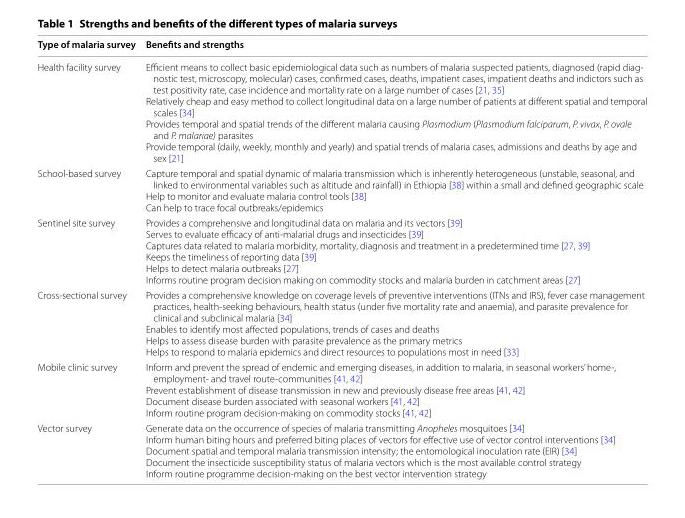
<table><thead><tr><td>Type of malaria survey</td><td>Benefits and strengths</td></tr></thead><tbody><tr><td>Health facility survey</td><td>Efficient means to collect basic epidemiological data such as numbers of malaria suspected patients, diagnosed (rapid diag- nostic test, microscopy, molecular) cases, confirmed cases, deaths, impatient cases, impatient deaths and indictors such as test positivity rate, case incidence and mortality rate on a large number of cases [21, 35] Relatively cheap and easy method to collect longitudinal data on a large number of patients at different spatial and temporal scales [34] Provides temporal and spatial trends of the different malaria causing Plasmodium (Plasmodium falciparum, P. vivax, P. ovale and P. malariae) parasites Provide temporal (daily, weekly, monthly and yearly) and spatial trends of malaria cases, admissions and deaths by age and sex [21]</td></tr><tr><td>School-based survey</td><td>Capture temporal and spatial dynamic of malaria transmission which is inherently heterogeneous (unstable, seasonal, and linked to environmental variables such as altitude and rainfall) in Ethiopia [38] within a small and defined geographic scale Help to monitor and evaluate malaria control tools [38] Can help to trace focal outbreaks/epidemics</td></tr><tr><td>Sentinel site survey</td><td>Provides a comprehensive and longitudinal data on malaria and its vectors [39] Serves to evaluate efficacy of anti-malarial drugs and insecticides [39] Captures data related to malaria morbidity, mortality, diagnosis and treatment in a predetermined time [27, 39] Keeps the timeliness of reporting data [39] Helps to detect malaria outbreaks [27] Informs routine program decision making on commodity stocks and malaria burden in catchment areas [27]</td></tr><tr><td>Cross-sectional survey</td><td>Provides a comprehensive knowledge on coverage levels of preventive interventions (ITNs and IRS), fever case management practices, health-seeking behaviours, health status (under five mortality rate and anaemia), and parasite prevalence for clinical and subclinical malaria [34] Enables to identify most affected populations, trends of cases and deaths Helps to assess disease burden with parasite prevalence as the primary metrics Helps to respond to malaria epidemics and direct resources to populations most in need [33]</td></tr><tr><td>Mobile clinic survey</td><td>Inform and prevent the spread of endemic and emerging diseases, in addition to malaria, in seasonal workers’ home-, employment- and travel route-communities [41, 42] Prevent establishment of disease transmission in new and previously disease free areas [41, 42] Document disease burden associated with seasonal workers [41, 42] Inform routine program decision-making on commodity stocks [41, 42]</td></tr><tr><td>Vector survey</td><td>Generate data on the occurrence of species of malaria transmitting Anopheles mosquitoes [34] Inform human biting hours and preferred biting places of vectors for effective use of vector control interventions [34] Document spatial and temporal malaria transmission intensity; the entomological inoculation rate (EIR) [34] Document the insecticide susceptibility status of malaria vectors which is the most available control strategy Inform routine programme decision-making on the best vector intervention strategy</td></tr></tbody></table>